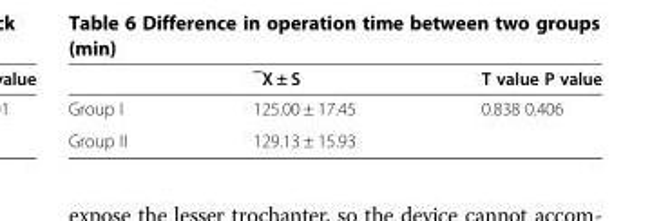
<table><thead><tr><td></td><td>‾X ± S</td><td>T value P value</td></tr></thead><tbody><tr><td>Group I</td><td>125.00 ± 17.45</td><td>0.838 0.406</td></tr><tr><td>Group II</td><td>129.13 ± 15.93</td><td></td></tr></tbody></table>